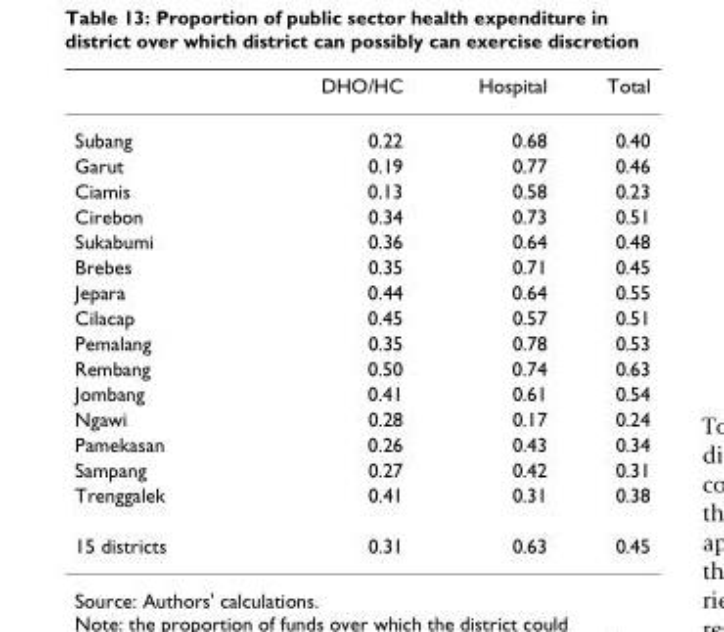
<table><thead><tr><td></td><td>DHO/HC</td><td>Hospital</td><td>Total</td></tr></thead><tbody><tr><td>Subang</td><td>0.22</td><td>0.68</td><td>0.40</td></tr><tr><td>Garut</td><td>0.19</td><td>0.77</td><td>0.46</td></tr><tr><td>Ciamis</td><td>0.13</td><td>0.58</td><td>0.23</td></tr><tr><td>Cirebon</td><td>0.34</td><td>0.73</td><td>0.51</td></tr><tr><td>Sukabumi</td><td>0.36</td><td>0.64</td><td>0.48</td></tr><tr><td>Brebes</td><td>0.35</td><td>0.71</td><td>0.45</td></tr><tr><td>Jepara</td><td>0.44</td><td>0.64</td><td>0.55</td></tr><tr><td>Cilacap</td><td>0.45</td><td>0.57</td><td>0.51</td></tr><tr><td>Pemalang</td><td>0.35</td><td>0.78</td><td>0.53</td></tr><tr><td>Rembang</td><td>0.50</td><td>0.74</td><td>0.63</td></tr><tr><td>Jombang</td><td>0.41</td><td>0.61</td><td>0.54</td></tr><tr><td>Ngawi</td><td>0.28</td><td>0.17</td><td>0.24</td></tr><tr><td>Pamekasan</td><td>0.26</td><td>0.43</td><td>0.34</td></tr><tr><td>Sampang</td><td>0.27</td><td>0.42</td><td>0.31</td></tr><tr><td>Trenggalek</td><td>0.41</td><td>0.31</td><td>0.38</td></tr><tr><td>15 districts</td><td>0.31</td><td>0.63</td><td>0.45</td></tr></tbody></table>